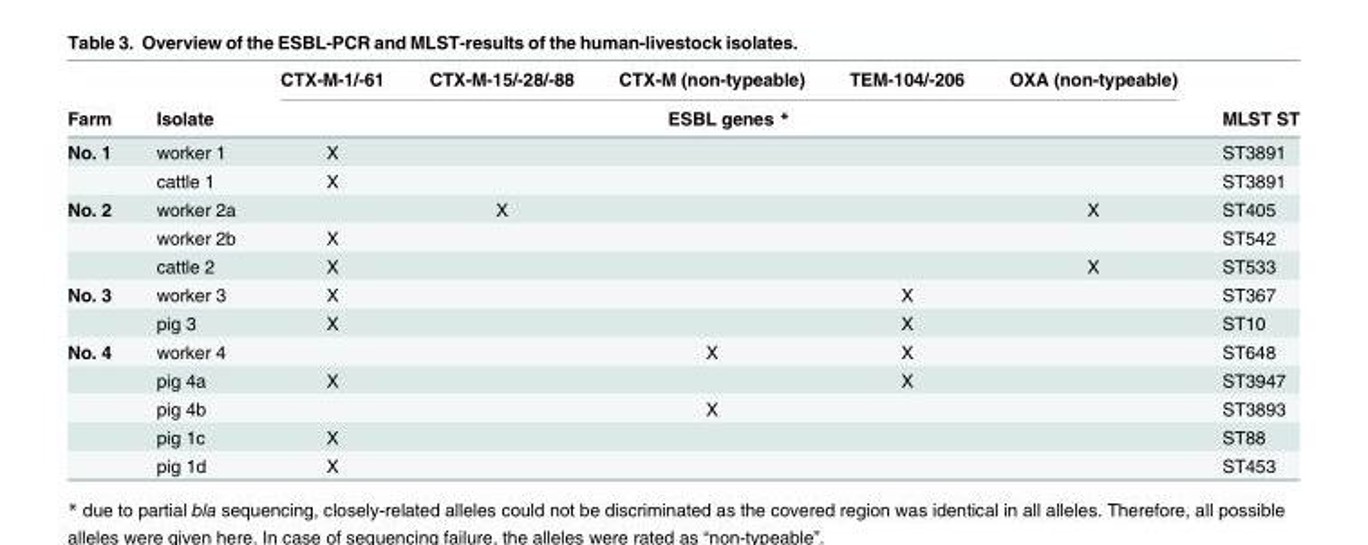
<table><thead><tr><td rowspan="2">Farm</td><td rowspan="2">Isolate</td><td>CTX-M-1/-61</td><td>CTX-M-15/-28/-88</td><td>CTX-M (non-typeable)</td><td>TEM-104/-206</td><td>OXA (non-typeable)</td><td rowspan="2">MLST ST</td></tr><tr><td colspan="5">ESBL genes *</td></tr></thead><tbody><tr><td rowspan="2">No. 1</td><td>worker 1</td><td>X</td><td></td><td></td><td></td><td></td><td>ST3891</td></tr><tr><td>cattle 1</td><td>X</td><td></td><td></td><td></td><td></td><td>ST3891</td></tr><tr><td rowspan="3">No. 2</td><td>worker 2a</td><td></td><td>X</td><td></td><td></td><td>X</td><td>ST405</td></tr><tr><td>worker 2b</td><td>X</td><td></td><td></td><td></td><td></td><td>ST542</td></tr><tr><td>cattle 2</td><td>X</td><td></td><td></td><td></td><td>X</td><td>ST533</td></tr><tr><td rowspan="2">No. 3</td><td>worker 3</td><td>X</td><td></td><td></td><td>X</td><td></td><td>ST367</td></tr><tr><td>pig 3</td><td>X</td><td></td><td></td><td>X</td><td></td><td>ST10</td></tr><tr><td rowspan="5">No. 4</td><td>worker 4</td><td></td><td></td><td>X</td><td>X</td><td></td><td>ST648</td></tr><tr><td>pig 4a</td><td>X</td><td></td><td></td><td>X</td><td></td><td>ST3947</td></tr><tr><td>pig 4b</td><td></td><td></td><td>X</td><td></td><td></td><td>ST3893</td></tr><tr><td>pig 1c</td><td>X</td><td></td><td></td><td></td><td></td><td>ST88</td></tr><tr><td>pig 1d</td><td>X</td><td></td><td></td><td></td><td></td><td>ST453</td></tr></tbody></table>